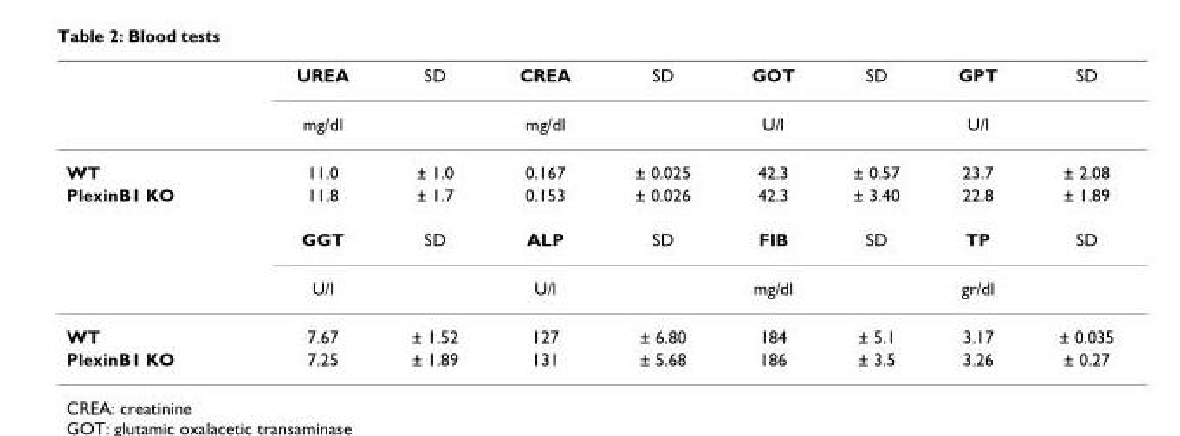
<table><thead><tr><td rowspan="2"></td><td rowspan="2">UREA mg/dl</td><td rowspan="2">SD</td><td rowspan="2">CREA mg/dl</td><td rowspan="2">SD</td><td rowspan="2">GOT U/l</td><td rowspan="2">SD</td><td rowspan="2">GPT U/l</td><td rowspan="2">SD</td></tr><tr></tr></thead><tbody><tr><td>WT</td><td>11.0</td><td>± 1.0</td><td>0.167</td><td>± 0.025</td><td>42.3</td><td>± 0.57</td><td>23.7</td><td>± 2.08</td></tr><tr><td rowspan="3">PlexinB1 KO</td><td>11.8</td><td>± 1.7</td><td>0.153</td><td>± 0.026</td><td>42.3</td><td>± 3.40</td><td>22.8</td><td>± 1.89</td></tr><tr><td>GGT</td><td>SD</td><td>ALP</td><td>SD</td><td>FIB</td><td>SD</td><td>TP</td><td>SD</td></tr><tr><td>U/l</td><td></td><td>U/l</td><td></td><td>mg/dl</td><td></td><td>gr/dl</td><td></td></tr><tr><td>WT</td><td>7.67</td><td>± 1.52</td><td>127</td><td>± 6.80</td><td>184</td><td>± 5.1</td><td>3.17</td><td>± 0.035</td></tr><tr><td>PlexinB1 KO</td><td>7.25</td><td>± 1.89</td><td>131</td><td>± 5.68</td><td>186</td><td>± 3.5</td><td>3.26</td><td>± 0.27</td></tr></tbody></table>